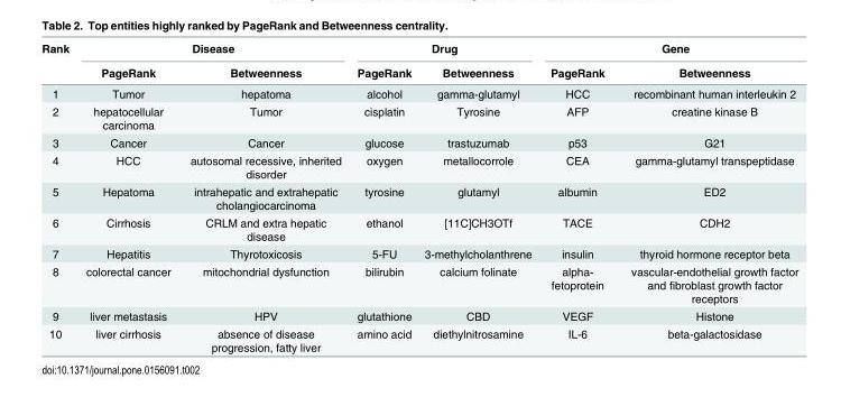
<table><thead><tr><td rowspan="2">Rank</td><td colspan="2">Disease</td><td colspan="2">Drug</td><td colspan="2">Gene</td></tr><tr><td>PageRank</td><td>Betweenness</td><td>PageRank</td><td>Betweenness</td><td>PageRank</td><td>Betweenness</td></tr></thead><tbody><tr><td>1</td><td>Tumor</td><td>hepatoma</td><td>alcohol</td><td>gamma-glutamyl</td><td>HCC</td><td>recombinant human interleukin 2</td></tr><tr><td>2</td><td>hepatocellular carcinoma</td><td>Tumor</td><td>cisplatin</td><td>Tyrosine</td><td>AFP</td><td>creatine kinase B</td></tr><tr><td>3</td><td>Cancer</td><td>Cancer</td><td>glucose</td><td>trastuzumab</td><td>p53</td><td>G21</td></tr><tr><td>4</td><td>HCC</td><td>autosomal recessive, inherited disorder</td><td>oxygen</td><td>metallocorrole</td><td>CEA</td><td>gamma-glutamyl transpeptidase</td></tr><tr><td>5</td><td>Hepatoma</td><td>intrahepatic and extrahepatic cholangiocarcinoma</td><td>tyrosine</td><td>glutamyl</td><td>albumin</td><td>ED2</td></tr><tr><td>6</td><td>Cirrhosis</td><td>CRLM and extra hepatic disease</td><td>ethanol</td><td>[11C]CH3OTf</td><td>TACE</td><td>CDH2</td></tr><tr><td>7</td><td>Hepatitis</td><td>Thyrotoxicosis</td><td>5-FU</td><td>3-methylcholanthrene</td><td>insulin</td><td>thyroid hormone receptor beta</td></tr><tr><td>8</td><td>colorectal cancer</td><td>mitochondrial dysfunction</td><td>bilirubin</td><td>calcium folinate</td><td>alpha- fetoprotein</td><td>vascular-endothelial growth factor and fibroblast growth factor receptors</td></tr><tr><td>9</td><td>liver metastasis</td><td>HPV</td><td>glutathione</td><td>CBD</td><td>VEGF</td><td>Histone</td></tr><tr><td>10</td><td>liver cirrhosis</td><td>absence of disease progression, fatty liver</td><td>amino acid</td><td>diethylnitrosamine</td><td>IL-6</td><td>beta-galactosidase</td></tr></tbody></table>